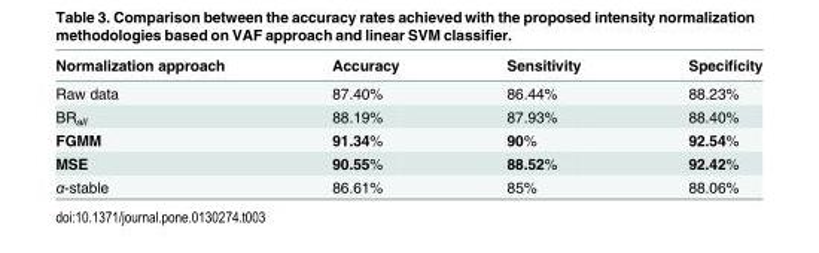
<table><thead><tr><td>Normalization approach</td><td>Accuracy</td><td>Sensitivity</td><td>Specificity</td></tr></thead><tbody><tr><td>Raw data</td><td>87.40%</td><td>86.44%</td><td>88.23%</td></tr><tr><td>BR<sub>all</sub></td><td>88.19%</td><td>87.93%</td><td>88.40%</td></tr><tr><td>FGMM</td><td>91.34%</td><td>90%</td><td>92.54%</td></tr><tr><td>MSE</td><td>90.55%</td><td>88.52%</td><td>92.42%</td></tr><tr><td>α-stable</td><td>86.61%</td><td>85%</td><td>88.06%</td></tr></tbody></table>